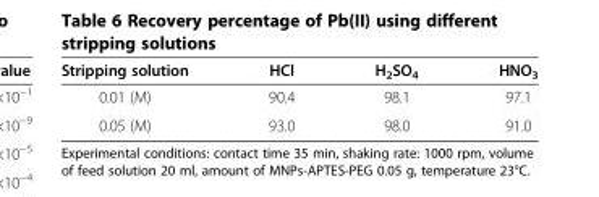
<table><thead><tr><td>Stripping solution</td><td>HCl</td><td>H<sub>2</sub>SO<sub>4</sub></td><td>HNO<sub>3</sub></td></tr></thead><tbody><tr><td>0.01 (M)</td><td>90.4</td><td>98.1</td><td>97.1</td></tr><tr><td>0.05 (M)</td><td>93.0</td><td>98.0</td><td>91.0</td></tr></tbody></table>